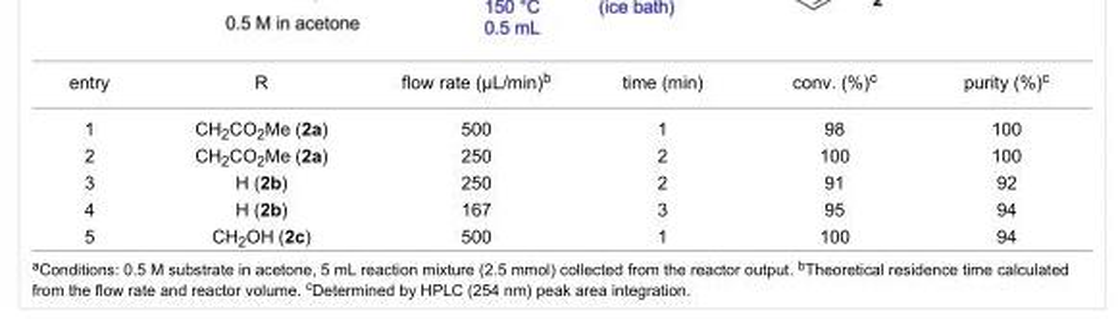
<table><tbody><tr><td>entry</td><td>R</td><td>flow rate (µL/min)<sup>b</sup></td><td>time (min)</td><td>conv. (%)<sup>c</sup></td><td>purity (%)<sup>c</sup></td></tr><tr><td>1</td><td>CH<sub>2</sub>CO<sub>2</sub>Me (2a)</td><td>500</td><td>1</td><td>98</td><td>100</td></tr><tr><td>2</td><td>CH<sub>2</sub>CO<sub>2</sub>Me (2a)</td><td>250</td><td>2</td><td>100</td><td>100</td></tr><tr><td>3</td><td>H (2b)</td><td>250</td><td>2</td><td>91</td><td>92</td></tr><tr><td>4</td><td>H (2b)</td><td>167</td><td>3</td><td>95</td><td>94</td></tr><tr><td>5</td><td>CH<sub>2</sub>OH (2c)</td><td>500</td><td>1</td><td>100</td><td>94</td></tr></tbody></table>